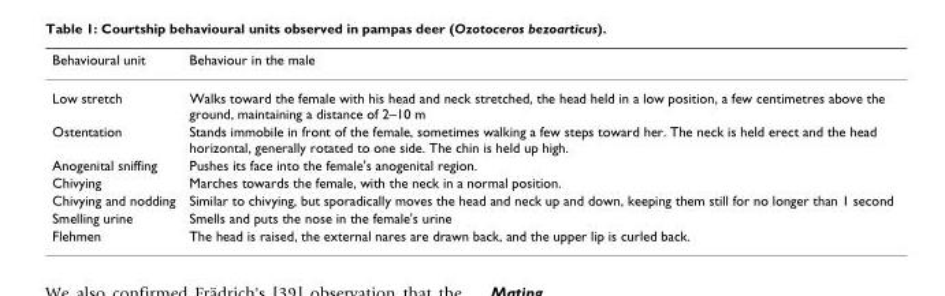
<table><thead><tr><td>Behavioural unit</td><td>Behaviour in the male</td></tr></thead><tbody><tr><td>Low stretch</td><td>Walks toward the female with his head and neck stretched, the head held in a low position, a few centimetres above the ground, maintaining a distance of 2–10 m</td></tr><tr><td>Ostentation</td><td>Stands immobile in front of the female, sometimes walking a few steps toward her. The neck is held erect and the head horizontal, generally rotated to one side. The chin is held up high.</td></tr><tr><td>Anogenital sniffing</td><td>Pushes its face into the female&#x27;s anogenital region.</td></tr><tr><td>Chivying</td><td>Marches towards the female, with the neck in a normal position.</td></tr><tr><td>Chivying and nodding</td><td>Similar to chivying, but sporadically moves the head and neck up and down, keeping them still for no longer than 1 second</td></tr><tr><td>Smelling urine</td><td>Smells and puts the nose in the female&#x27;s urine</td></tr><tr><td>Flehmen</td><td>The head is raised, the external nares are drawn back, and the upper lip is curled back.</td></tr></tbody></table>